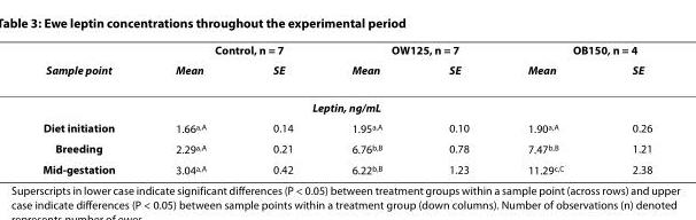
<table><thead><tr><td rowspan="2">Sample point</td><td colspan="2">Control, n = 7</td><td colspan="2">OW125, n = 7</td><td colspan="2">OB150, n = 4</td></tr><tr><td>Mean</td><td>SE</td><td>Mean</td><td>SE</td><td>Mean</td><td>SE</td></tr></thead><tbody><tr><td colspan="7">Leptin, ng/mL</td></tr><tr><td>Diet initiation</td><td>1.66<sup>a,A</sup></td><td>0.14</td><td>1.95<sup>a,A</sup></td><td>0.10</td><td>1.90<sup>a,A</sup></td><td>0.26</td></tr><tr><td>Breeding</td><td>2.29<sup>a,A</sup></td><td>0.21</td><td>6.76<sup>b,B</sup></td><td>0.78</td><td>7.47<sup>b,B</sup></td><td>1.21</td></tr><tr><td>Mid-gestation</td><td>3.04<sup>a,A</sup></td><td>0.42</td><td>6.22<sup>b,B</sup></td><td>1.23</td><td>11.29<sup>c,C</sup></td><td>2.38</td></tr></tbody></table>